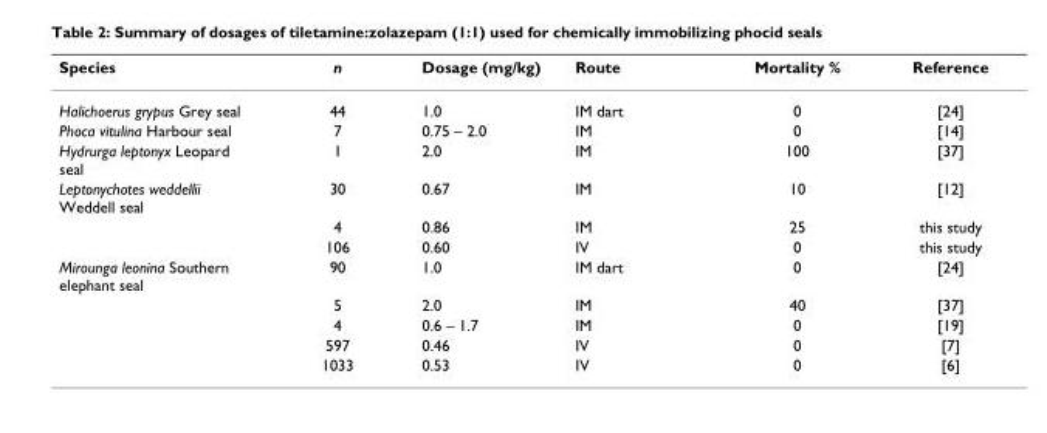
<table><thead><tr><td>Species</td><td>n</td><td>Dosage (mg/kg)</td><td>Route</td><td>Mortality %</td><td>Reference</td></tr></thead><tbody><tr><td>Halichoerus grypus Grey seal</td><td>44</td><td>1.0</td><td>IM dart</td><td>0</td><td>[24]</td></tr><tr><td>Phoca vitulina Harbour seal</td><td>7</td><td>0.75 – 2.0</td><td>IM</td><td>0</td><td>[14]</td></tr><tr><td>Hydrurga leptonyx Leopard seal</td><td>1</td><td>2.0</td><td>IM</td><td>100</td><td>[37]</td></tr><tr><td rowspan="3">Leptonychotes weddellii Weddell seal</td><td>30</td><td>0.67</td><td>IM</td><td>10</td><td>[12]</td></tr><tr><td>4</td><td>0.86</td><td>IM</td><td>25</td><td>this study</td></tr><tr><td>106</td><td>0.60</td><td>IV</td><td>0</td><td>this study</td></tr><tr><td rowspan="5">Mirounga leonina Southern elephant seal</td><td>90</td><td>1.0</td><td>IM dart</td><td>0</td><td>[24]</td></tr><tr><td>5</td><td>2.0</td><td>IM</td><td>40</td><td>[37]</td></tr><tr><td>4</td><td>0.6 – 1.7</td><td>IM</td><td>0</td><td>[19]</td></tr><tr><td>597</td><td>0.46</td><td>IV</td><td>0</td><td>[7]</td></tr><tr><td>1033</td><td>0.53</td><td>IV</td><td>0</td><td>[6]</td></tr></tbody></table>